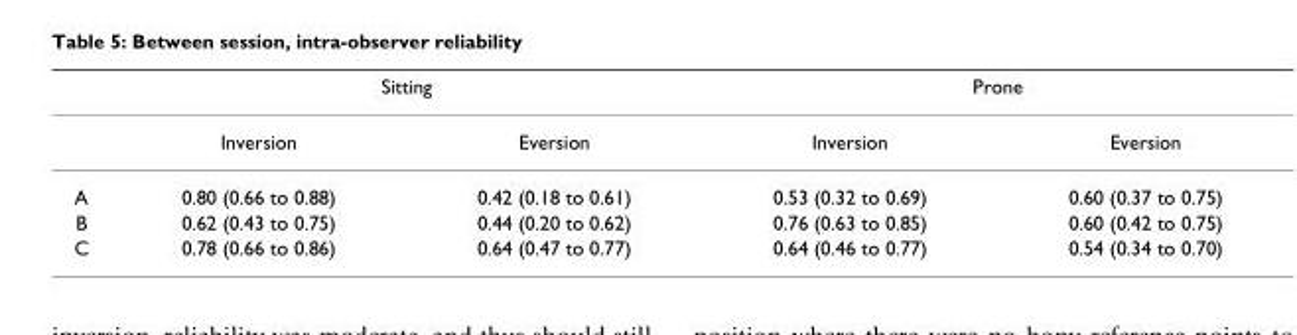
<table><thead><tr><td rowspan="2"></td><td colspan="2">Sitting</td><td colspan="2">Prone</td></tr><tr><td>Inversion</td><td>Eversion</td><td>Inversion</td><td>Eversion</td></tr></thead><tbody><tr><td>A</td><td>0.80 (0.66 to 0.88)</td><td>0.42 (0.18 to 0.61)</td><td>0.53 (0.32 to 0.69)</td><td>0.60 (0.37 to 0.75)</td></tr><tr><td>B</td><td>0.62 (0.43 to 0.75)</td><td>0.44 (0.20 to 0.62)</td><td>0.76 (0.63 to 0.85)</td><td>0.60 (0.42 to 0.75)</td></tr><tr><td>C</td><td>0.78 (0.66 to 0.86)</td><td>0.64 (0.47 to 0.77)</td><td>0.64 (0.46 to 0.77)</td><td>0.54 (0.34 to 0.70)</td></tr></tbody></table>